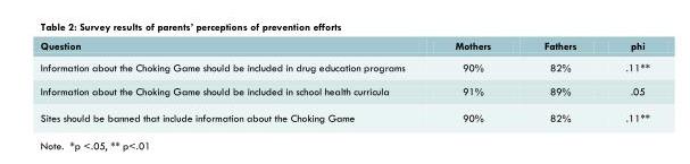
<table><thead><tr><td>Question</td><td>Mothers</td><td>Fathers</td><td>phi</td></tr></thead><tbody><tr><td>Information about the Choking Game should be included in drug education programs</td><td>90%</td><td>82%</td><td>.11**</td></tr><tr><td>Information about the Choking Game should be included in school health curricula</td><td>91%</td><td>89%</td><td>.05</td></tr><tr><td>Sites should be banned that include information about the Choking Game</td><td>90%</td><td>82%</td><td>.11**</td></tr></tbody></table>